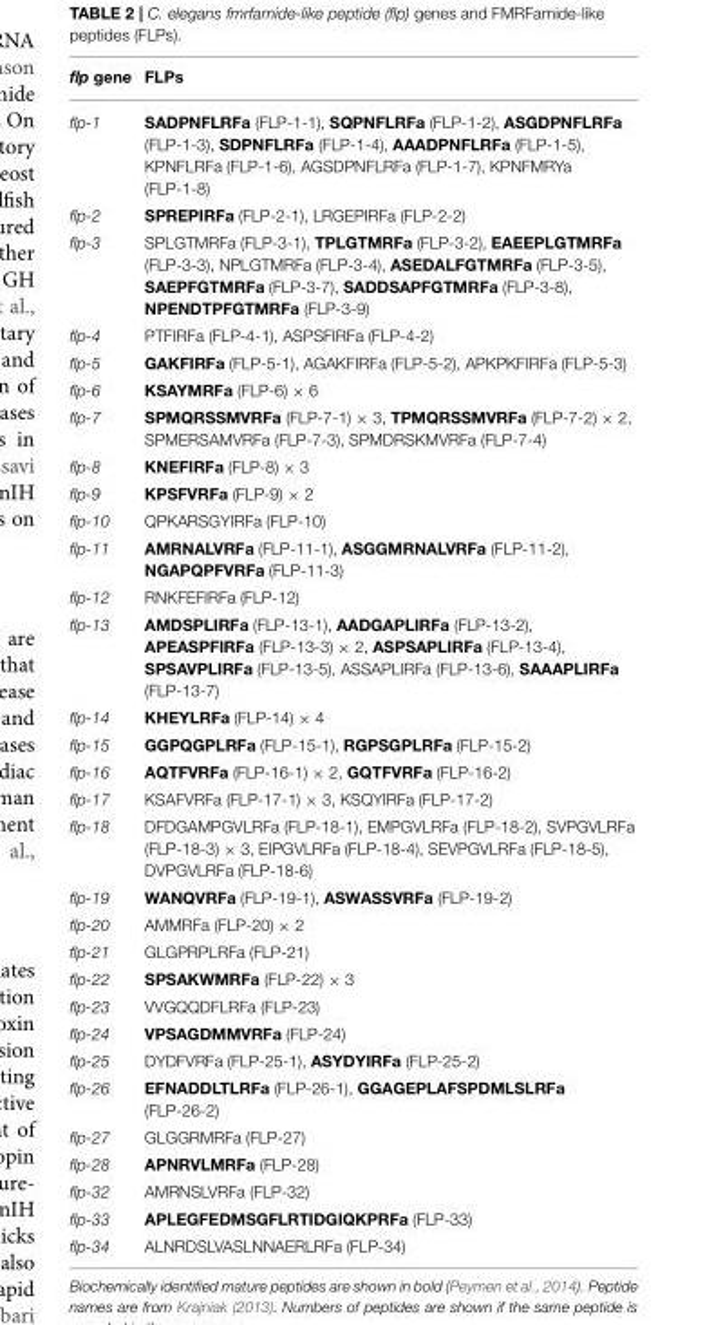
<table><thead><tr><td>flp gene</td><td>FLPs</td></tr></thead><tbody><tr><td>flp-1</td><td>SADPNFLRFa (FLP-1-1), SQPNFLRFa (FLP-1-2), ASGDPNFLRFa (FLP-1-3), SDPNFLRFa (FLP-1-4), AAADPNFLRFa (FLP-1-5), KPNFLRFa (FLP-1-6), AGSDPNFLRFa (FLP-1-7), KPNFMRYa (FLP-1-8)</td></tr><tr><td>flp-2</td><td>SPREPIRFa (FLP-2-1), LRGEPIRFa (FLP-2-2)</td></tr><tr><td>flp-3</td><td>SPLGTMRFa (FLP-3-1), TPLGTMRFa (FLP-3-2), EAEEPLGTMRFa (FLP-3-3), NPLGTMRFa (FLP-3-4), ASEDALFGTMRFa (FLP-3-5), SAEPFGTMRFa (FLP-3-7), SADDSAPFGTMRFa (FLP-3-8), NPENDTPFGTMRFa (FLP-3-9)</td></tr><tr><td>flp-4</td><td>PTFIRFa (FLP-4-1), ASPSFIRFa (FLP-4-2)</td></tr><tr><td>flp-5</td><td>GAKFIRFa (FLP-5-1), AGAKFIRFa (FLP-5-2), APKPKFIRFa (FLP-5-3)</td></tr><tr><td>flp-6</td><td>KSAYMRFa (FLP-6) × 6</td></tr><tr><td>flp-7</td><td>SPMQRSSMVRFa (FLP-7-1) × 3, TPMQRSSMVRFa (FLP-7-2) × 2, SPMERSAMVRFa (FLP-7-3), SPMDRSKMVRFa (FLP-7-4)</td></tr><tr><td>flp-8</td><td>KNEFIRFa (FLP-8) × 3</td></tr><tr><td>flp-9</td><td>KPSFVRFa (FLP-9) × 2</td></tr><tr><td>flp-10</td><td>QPKARSGYIRFa (FLP-10)</td></tr><tr><td>flp-11</td><td>AMRNALVRFa (FLP-11-1), ASGGMRNALVRFa (FLP-11-2), NGAPQPFVRFa (FLP-11-3)</td></tr><tr><td>flp-12</td><td>RNKFEFIRFa (FLP-12)</td></tr><tr><td>flp-13</td><td>AMDSPLIRFa (FLP-13-1), AADGAPLIRFa (FLP-13-2), APEASPFIRFa (FLP-13-3) × 2, ASPSAPLIRFa (FLP-13-4), SPSAVPLIRFa (FLP-13-5), ASSAPLIRFa (FLP-13-6), SAAAPLIRFa (FLP-13-7)</td></tr><tr><td>flp-14</td><td>KHEYLRFa (FLP-14) × 4</td></tr><tr><td>flp-15</td><td>GGPQGPLRFa (FLP-15-1), RGPSGPLRFa (FLP-15-2)</td></tr><tr><td>flp-16</td><td>AQTFVRFa (FLP-16-1) × 2, GQTFVRFa (FLP-16-2)</td></tr><tr><td>flp-17</td><td>KSAFVRFa (FLP-17-1) × 3, KSQYIRFa (FLP-17-2)</td></tr><tr><td>flp-18</td><td>DFDGAMPGVLRFa (FLP-18-1), EMPGVLRFa (FLP-18-2), SVPGVLRFa (FLP-18-3) × 3, EIPGVLRFa (FLP-18-4), SEVPGVLRFa (FLP-18-5), DVPGVLRFa (FLP-18-6)</td></tr><tr><td>flp-19</td><td>WANQVRFa (FLP-19-1), ASWASSVRFa (FLP-19-2)</td></tr><tr><td>flp-20</td><td>AMMRFa (FLP-20) × 2</td></tr><tr><td>flp-21</td><td>GLGPRPLRFa (FLP-21)</td></tr><tr><td>flp-22</td><td>SPSAKWMRFa (FLP-22) × 3</td></tr><tr><td>flp-23</td><td>VVGQQDFLRFa (FLP-23)</td></tr><tr><td>flp-24</td><td>VPSAGDMMVRFa (FLP-24)</td></tr><tr><td>flp-25</td><td>DYDFVRFa (FLP-25-1), ASYDYIRFa (FLP-25-2)</td></tr><tr><td>flp-26</td><td>EFNADDLTLRFa (FLP-26-1), GGAGEPLAFSPDMLSLRFa (FLP-26-2)</td></tr><tr><td>flp-27</td><td>GLGGRMRFa (FLP-27)</td></tr><tr><td>flp-28</td><td>APNRVLMRFa (FLP-28)</td></tr><tr><td>flp-32</td><td>AMRNSLVRFa (FLP-32)</td></tr><tr><td>flp-33</td><td>APLEGFEDMSGFLRTIDGIQKPRFa (FLP-33)</td></tr><tr><td>flp-34</td><td>ALNRDSLVASLNNAERLRFa (FLP-34)</td></tr></tbody></table>